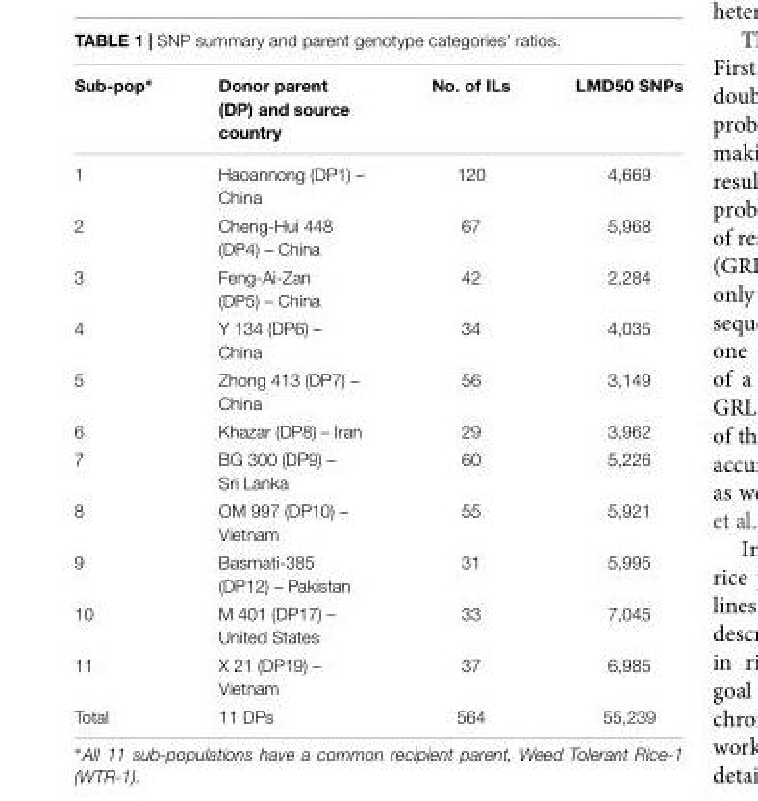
<table><thead><tr><td>Sub-pop∗</td><td>Donor parent (DP) and source country</td><td>No. of ILs</td><td>LMD50 SNPs</td></tr></thead><tbody><tr><td>1</td><td>Haoannong (DP1) – China</td><td>120</td><td>4,669</td></tr><tr><td>2</td><td>Cheng-Hui 448 (DP4) – China</td><td>67</td><td>5,968</td></tr><tr><td>3</td><td>Feng-Ai-Zan (DP5) – China</td><td>42</td><td>2,284</td></tr><tr><td>4</td><td>Y 134 (DP6) – China</td><td>34</td><td>4,035</td></tr><tr><td>5</td><td>Zhong 413 (DP7) – China</td><td>56</td><td>3,149</td></tr><tr><td>6</td><td>Khazar (DP8) – Iran</td><td>29</td><td>3,962</td></tr><tr><td>7</td><td>BG 300 (DP9) – Sri Lanka</td><td>60</td><td>5,226</td></tr><tr><td>8</td><td>OM 997 (DP10) – Vietnam</td><td>55</td><td>5,921</td></tr><tr><td>9</td><td>Basmati-385 (DP12) – Pakistan</td><td>31</td><td>5,995</td></tr><tr><td>10</td><td>M 401 (DP17) – United States</td><td>33</td><td>7,045</td></tr><tr><td>11</td><td>X 21 (DP19) – Vietnam</td><td>37</td><td>6,985</td></tr><tr><td>Total</td><td>11 DPs</td><td>564</td><td>55,239</td></tr></tbody></table>